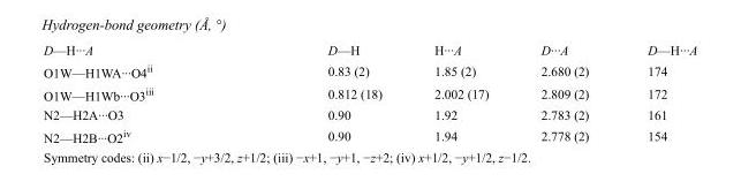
<table><tbody><tr><td>D—H···A</td><td>D—H</td><td>H···A</td><td>D···A</td><td>D—H···A</td></tr><tr><td>O1W—H1WA···O4<sup>ii</sup></td><td>0.83 (2)</td><td>1.85 (2)</td><td>2.680 (2)</td><td>174</td></tr><tr><td>O1W—H1Wb···O3<sup>iii</sup></td><td>0.812 (18)</td><td>2.002 (17)</td><td>2.809 (2)</td><td>172</td></tr><tr><td>N2—H2A···O3</td><td>0.90</td><td>1.92</td><td>2.783 (2)</td><td>161</td></tr><tr><td>N2—H2B···O2<sup>iv</sup></td><td>0.90</td><td>1.94</td><td>2.778 (2)</td><td>154</td></tr></tbody></table>